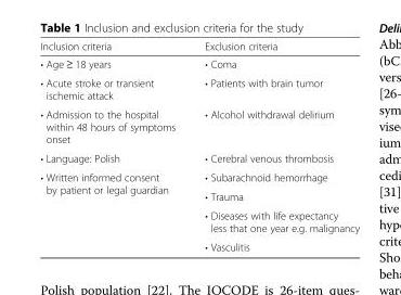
<table><thead><tr><td>Inclusion criteria</td><td>Exclusion criteria</td></tr></thead><tbody><tr><td>• Age ≥ 18 years</td><td>• Coma</td></tr><tr><td>• Acute stroke or transient ischemic attack</td><td>• Patients with brain tumor</td></tr><tr><td>• Admission to the hospital within 48 hours of symptoms onset</td><td>• Alcohol withdrawal delirium</td></tr><tr><td>• Language: Polish</td><td>• Cerebral venous thrombosis</td></tr><tr><td rowspan="4">• Written informed consent by patient or legal guardian</td><td>• Subarachnoid hemorrhage</td></tr><tr><td>• Trauma</td></tr><tr><td>• Diseases with life expectancy less that one year e.g. malignancy</td></tr><tr><td>• Vasculitis</td></tr></tbody></table>